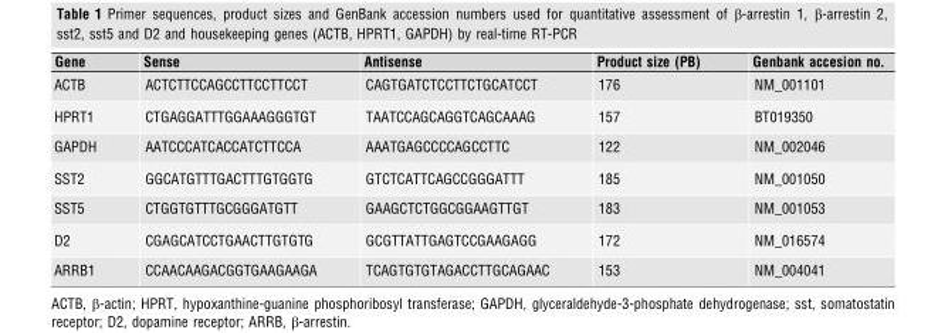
<table><thead><tr><td>Gene</td><td>Sense</td><td>Antisense</td><td>Product size (PB)</td><td>Genbank accesion no.</td></tr></thead><tbody><tr><td>ACTB</td><td>ACTCTTCCAGCCTTCCTTCCT</td><td>CAGTGATCTCCTTCTGCATCCT</td><td>176</td><td>NM_001101</td></tr><tr><td>HPRT1</td><td>CTGAGGATTTGGAAAGGGTGT</td><td>TAATCCAGCAGGTCAGCAAAG</td><td>157</td><td>BT019350</td></tr><tr><td>GAPDH</td><td>AATCCCATCACCATCTTCCA</td><td>AAATGAGCCCCAGCCTTC</td><td>122</td><td>NM_002046</td></tr><tr><td>SST2</td><td>GGCATGTTTGACTTTGTGGTG</td><td>GTCTCATTCAGCCGGGATTT</td><td>185</td><td>NM_001050</td></tr><tr><td>SST5</td><td>CTGGTGTTTGCGGGATGTT</td><td>GAAGCTCTGGCGGAAGTTGT</td><td>183</td><td>NM_001053</td></tr><tr><td>D2</td><td>CGAGCATCCTGAACTTGTGTG</td><td>GCGTTATTGAGTCCGAAGAGG</td><td>172</td><td>NM_016574</td></tr><tr><td>ARRB1</td><td>CCAACAAGACGGTGAAGAAGA</td><td>TCAGTGTGTAGACCTTGCAGAAC</td><td>153</td><td>NM_004041</td></tr></tbody></table>